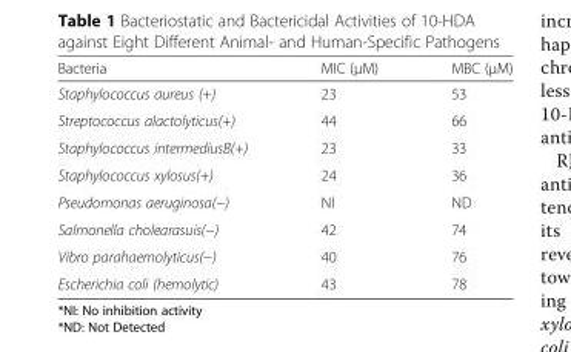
<table><thead><tr><td>Bacteria</td><td>MIC (μM)</td><td>MBC (μM)</td></tr></thead><tbody><tr><td>Staphylococcus aureus (+)</td><td>23</td><td>53</td></tr><tr><td>Streptococcus alactolyticus(+)</td><td>44</td><td>66</td></tr><tr><td>Staphylococcus intermediusB(+)</td><td>23</td><td>33</td></tr><tr><td>Staphylococcus xylosus(+)</td><td>24</td><td>36</td></tr><tr><td>Pseudomonas aeruginosa(−)</td><td>NI</td><td>ND</td></tr><tr><td>Salmonella cholearasuis(−)</td><td>42</td><td>74</td></tr><tr><td>Vibro parahaemolyticus(−)</td><td>40</td><td>76</td></tr><tr><td>Escherichia coli (hemolytic)</td><td>43</td><td>78</td></tr></tbody></table>